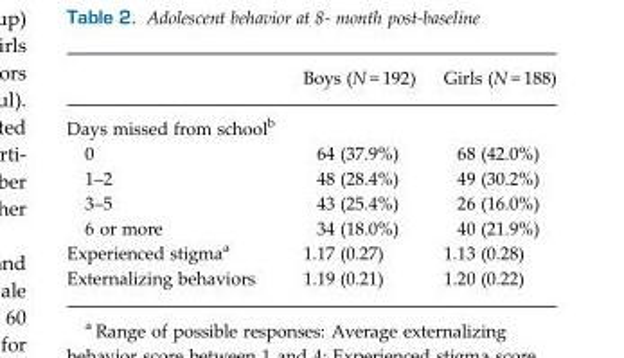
<table><thead><tr><td></td><td>Boys (N = 192)</td><td>Girls (N = 188)</td></tr></thead><tbody><tr><td colspan="3">Days missed from school<sup>b</sup></td></tr><tr><td>0</td><td>64 (37.9%)</td><td>68 (42.0%)</td></tr><tr><td>1–2</td><td>48 (28.4%)</td><td>49 (30.2%)</td></tr><tr><td>3–5</td><td>43 (25.4%)</td><td>26 (16.0%)</td></tr><tr><td>6 or more</td><td>34 (18.0%)</td><td>40 (21.9%)</td></tr><tr><td>Experienced stigma<sup>a</sup></td><td>1.17 (0.27)</td><td>1.13 (0.28)</td></tr><tr><td>Externalizing behaviors</td><td>1.19 (0.21)</td><td>1.20 (0.22)</td></tr></tbody></table>